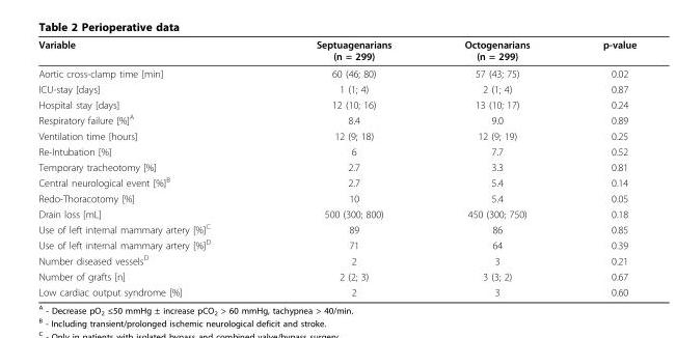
<table><thead><tr><td>Variable</td><td>Septuagenarians (n = 299)</td><td>Octogenarians (n = 299)</td><td>p-value</td></tr></thead><tbody><tr><td>Aortic cross-clamp time [min]</td><td>60 (46; 80)</td><td>57 (43; 75)</td><td>0.02</td></tr><tr><td>ICU-stay [days]</td><td>1 (1; 4)</td><td>2 (1; 4)</td><td>0.87</td></tr><tr><td>Hospital stay [days]</td><td>12 (10; 16)</td><td>13 (10; 17)</td><td>0.24</td></tr><tr><td>Respiratory failure [%]<sup>A</sup></td><td>8.4</td><td>9.0</td><td>0.89</td></tr><tr><td>Ventilation time [hours]</td><td>12 (9; 18)</td><td>12 (9; 19)</td><td>0.25</td></tr><tr><td>Re-Intubation [%]</td><td>6</td><td>7.7</td><td>0.52</td></tr><tr><td>Temporary tracheotomy [%]</td><td>2.7</td><td>3.3</td><td>0.81</td></tr><tr><td>Central neurological event [%]<sup>B</sup></td><td>2.7</td><td>5.4</td><td>0.14</td></tr><tr><td>Redo-Thoracotomy [%]</td><td>10</td><td>5.4</td><td>0.05</td></tr><tr><td>Drain loss [mL]</td><td>500 (300; 800)</td><td>450 (300; 750)</td><td>0.18</td></tr><tr><td>Use of left internal mammary artery [%]<sup>C</sup></td><td>89</td><td>86</td><td>0.85</td></tr><tr><td>Use of left internal mammary artery [%]<sup>D</sup></td><td>71</td><td>64</td><td>0.39</td></tr><tr><td>Number diseased vessels<sup>D</sup></td><td>2</td><td>3</td><td>0.21</td></tr><tr><td>Number of grafts [n]</td><td>2 (2; 3)</td><td>3 (3; 2)</td><td>0.67</td></tr><tr><td>Low cardiac output syndrome [%]</td><td>2</td><td>3</td><td>0.60</td></tr></tbody></table>